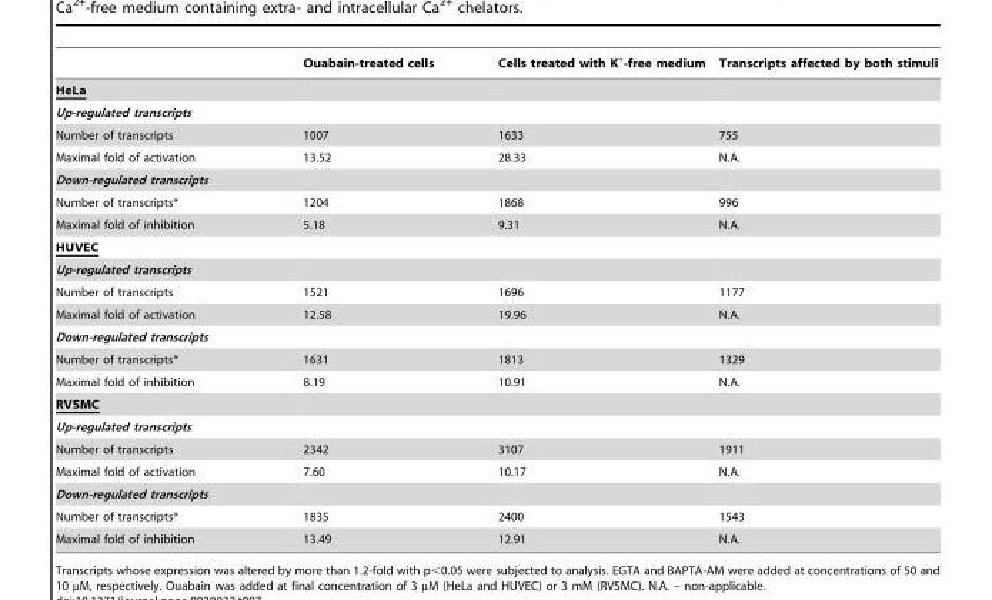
<table><thead><tr><td></td><td>Ouabain-treated cells</td><td>Cells treated with K<sup>+</sup>-free medium</td><td>Transcripts affected by both stimuli</td></tr></thead><tbody><tr><td colspan="4">HeLa</td></tr><tr><td colspan="4">Up-regulated transcripts</td></tr><tr><td>Number of transcripts</td><td>1007</td><td>1633</td><td>755</td></tr><tr><td>Maximal fold of activation</td><td>13.52</td><td>28.33</td><td>N.A.</td></tr><tr><td colspan="4">Down-regulated transcripts</td></tr><tr><td>Number of transcripts*</td><td>1204</td><td>1868</td><td>996</td></tr><tr><td>Maximal fold of inhibition</td><td>5.18</td><td>9.31</td><td>N.A.</td></tr><tr><td colspan="4">HUVEC</td></tr><tr><td colspan="4">Up-regulated transcripts</td></tr><tr><td>Number of transcripts</td><td>1521</td><td>1696</td><td>1177</td></tr><tr><td>Maximal fold of activation</td><td>12.58</td><td>19.96</td><td>N.A.</td></tr><tr><td colspan="4">Down-regulated transcripts</td></tr><tr><td>Number of transcripts*</td><td>1631</td><td>1813</td><td>1329</td></tr><tr><td>Maximal fold of inhibition</td><td>8.19</td><td>10.91</td><td>N.A.</td></tr><tr><td colspan="4">RVSMC</td></tr><tr><td colspan="4">Up-regulated transcripts</td></tr><tr><td>Number of transcripts</td><td>2342</td><td>3107</td><td>1911</td></tr><tr><td>Maximal fold of activation</td><td>7.60</td><td>10.17</td><td>N.A.</td></tr><tr><td colspan="4">Down-regulated transcripts</td></tr><tr><td>Number of transcripts*</td><td>1835</td><td>2400</td><td>1543</td></tr><tr><td>Maximal fold of inhibition</td><td>13.49</td><td>12.91</td><td>N.A.</td></tr></tbody></table>